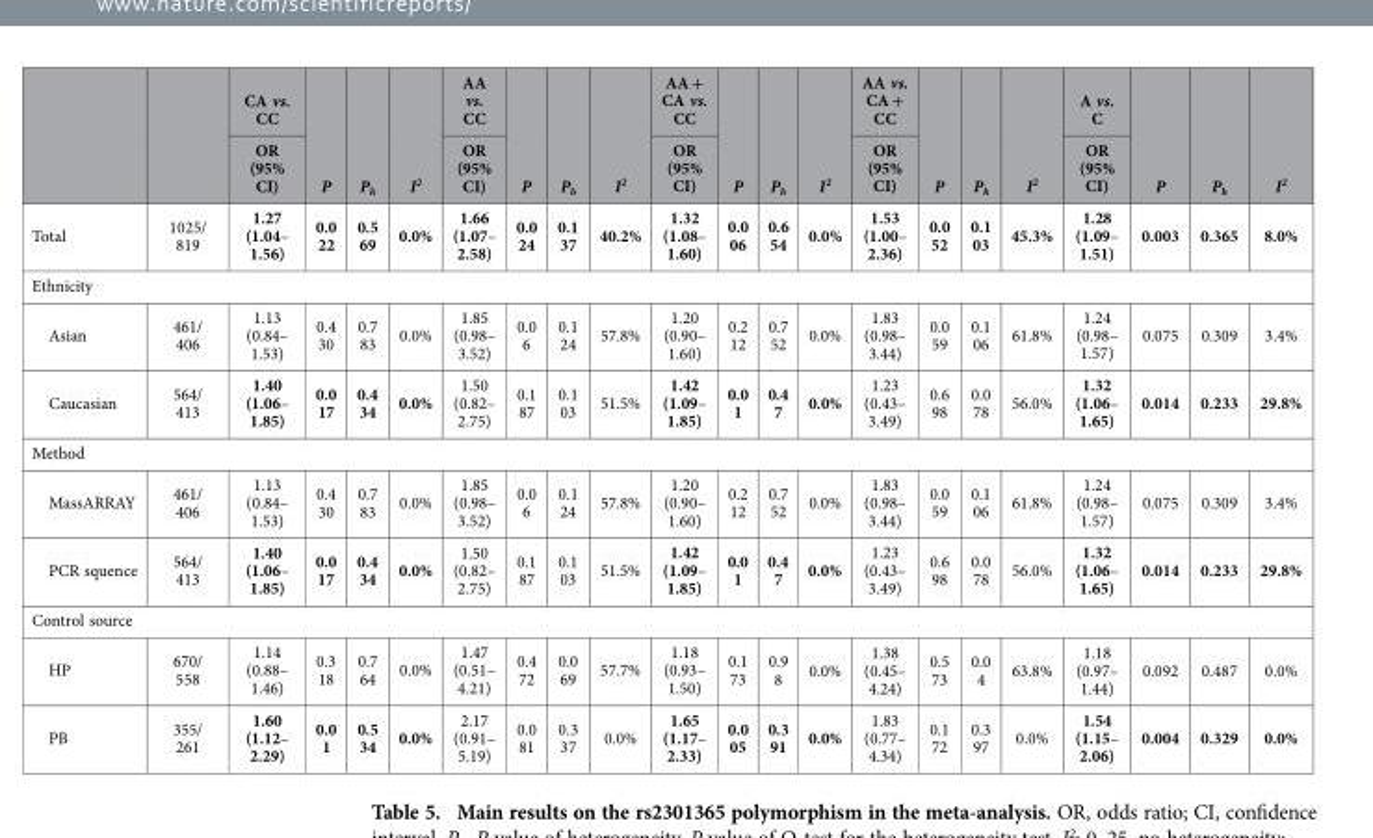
<table><thead><tr><td rowspan="2"></td><td rowspan="2"></td><td rowspan="2">CA vs. CC OR (95% CI)</td><td rowspan="2">P</td><td rowspan="2">P<sub>h</sub></td><td rowspan="2">I<sup>2</sup></td><td rowspan="2">AA vs. CC OR (95% CI)</td><td rowspan="2">P</td><td rowspan="2">P<sub>h</sub></td><td rowspan="2">I<sup>2</sup></td><td rowspan="2">AA + CA vs. CC OR (95% CI)</td><td rowspan="2">P</td><td rowspan="2">P<sub>h</sub></td><td rowspan="2">I<sup>2</sup></td><td rowspan="2">AA vs. CA + CC OR (95% CI)</td><td rowspan="2">P</td><td rowspan="2">P<sub>h</sub></td><td rowspan="2">I<sup>2</sup></td><td rowspan="2">A vs. C OR (95% CI)</td><td rowspan="2">P</td><td rowspan="2">P<sub>h</sub></td><td rowspan="2">I<sup>2</sup></td></tr><tr></tr></thead><tbody><tr><td>Total</td><td>1025/ 819</td><td>1.27 (1.04– 1.56)</td><td>0.0 22</td><td>0.5 69</td><td>0.0%</td><td>1.66 (1.07– 2.58)</td><td>0.0 24</td><td>0.1 37</td><td>40.2%</td><td>1.32 (1.08– 1.60)</td><td>0.0 06</td><td>0.6 54</td><td>0.0%</td><td>1.53 (1.00– 2.36)</td><td>0.0 52</td><td>0.1 03</td><td>45.3%</td><td>1.28 (1.09– 1.51)</td><td>0.003</td><td>0.365</td><td>8.0%</td></tr><tr><td colspan="22">Ethnicity</td></tr><tr><td>Asian</td><td>461/ 406</td><td>1.13 (0.84– 1.53)</td><td>0.4 30</td><td>0.7 83</td><td>0.0%</td><td>1.85 (0.98– 3.52)</td><td>0.0 6</td><td>0.1 24</td><td>57.8%</td><td>1.20 (0.90– 1.60)</td><td>0.2 12</td><td>0.7 52</td><td>0.0%</td><td>1.83 (0.98– 3.44)</td><td>0.0 59</td><td>0.1 06</td><td>61.8%</td><td>1.24 (0.98– 1.57)</td><td>0.075</td><td>0.309</td><td>3.4%</td></tr><tr><td>Caucasian</td><td>564/ 413</td><td>1.40 (1.06– 1.85)</td><td>0.0 17</td><td>0.4 34</td><td>0.0%</td><td>1.50 (0.82– 2.75)</td><td>0.1 87</td><td>0.1 03</td><td>51.5%</td><td>1.42 (1.09– 1.85)</td><td>0.0 1</td><td>0.4 7</td><td>0.0%</td><td>1.23 (0.43– 3.49)</td><td>0.6 98</td><td>0.0 78</td><td>56.0%</td><td>1.32 (1.06– 1.65)</td><td>0.014</td><td>0.233</td><td>29.8%</td></tr><tr><td colspan="22">Method</td></tr><tr><td>MassARRAY</td><td>461/ 406</td><td>1.13 (0.84– 1.53)</td><td>0.4 30</td><td>0.7 83</td><td>0.0%</td><td>1.85 (0.98– 3.52)</td><td>0.0 6</td><td>0.1 24</td><td>57.8%</td><td>1.20 (0.90– 1.60)</td><td>0.2 12</td><td>0.7 52</td><td>0.0%</td><td>1.83 (0.98– 3.44)</td><td>0.0 59</td><td>0.1 06</td><td>61.8%</td><td>1.24 (0.98– 1.57)</td><td>0.075</td><td>0.309</td><td>3.4%</td></tr><tr><td>PCR squence</td><td>564/ 413</td><td>1.40 (1.06– 1.85)</td><td>0.0 17</td><td>0.4 34</td><td>0.0%</td><td>1.50 (0.82– 2.75)</td><td>0.1 87</td><td>0.1 03</td><td>51.5%</td><td>1.42 (1.09– 1.85)</td><td>0.0 1</td><td>0.4 7</td><td>0.0%</td><td>1.23 (0.43– 3.49)</td><td>0.6 98</td><td>0.0 78</td><td>56.0%</td><td>1.32 (1.06– 1.65)</td><td>0.014</td><td>0.233</td><td>29.8%</td></tr><tr><td colspan="22">Control source</td></tr><tr><td>HP</td><td>670/ 558</td><td>1.14 (0.88– 1.46)</td><td>0.3 18</td><td>0.7 64</td><td>0.0%</td><td>1.47 (0.51– 4.21)</td><td>0.4 72</td><td>0.0 69</td><td>57.7%</td><td>1.18 (0.93– 1.50)</td><td>0.1 73</td><td>0.9 8</td><td>0.0%</td><td>1.38 (0.45– 4.24)</td><td>0.5 73</td><td>0.0 4</td><td>63.8%</td><td>1.18 (0.97– 1.44)</td><td>0.092</td><td>0.487</td><td>0.0%</td></tr><tr><td>PB</td><td>355/ 261</td><td>1.60 (1.12– 2.29)</td><td>0.0 1</td><td>0.5 34</td><td>0.0%</td><td>2.17 (0.91– 5.19)</td><td>0.0 81</td><td>0.3 37</td><td>0.0%</td><td>1.65 (1.17– 2.33)</td><td>0.0 05</td><td>0.3 91</td><td>0.0%</td><td>1.83 (0.77– 4.34)</td><td>0.1 72</td><td>0.3 97</td><td>0.0%</td><td>1.54 (1.15– 2.06)</td><td>0.004</td><td>0.329</td><td>0.0%</td></tr></tbody></table>